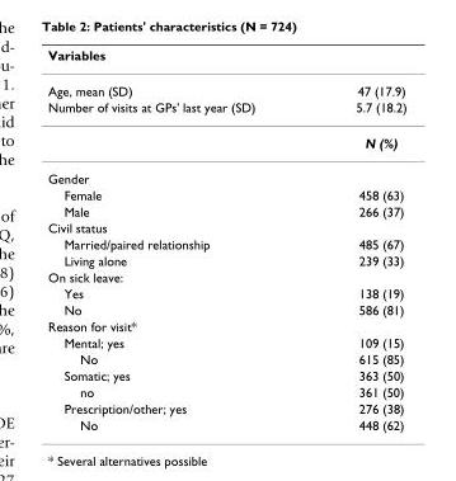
<table><thead><tr><td>Variables</td><td></td></tr></thead><tbody><tr><td>Age, mean (SD)</td><td>47 (17.9)</td></tr><tr><td rowspan="2">Number of visits at GPs&#x27; last year (SD)</td><td>5.7 (18.2)</td></tr><tr><td>N (%)</td></tr><tr><td colspan="2">Gender</td></tr><tr><td>Female</td><td>458 (63)</td></tr><tr><td>Male</td><td>266 (37)</td></tr><tr><td colspan="2">Civil status</td></tr><tr><td>Married/paired relationship</td><td>485 (67)</td></tr><tr><td>Living alone</td><td>239 (33)</td></tr><tr><td colspan="2">On sick leave:</td></tr><tr><td>Yes</td><td>138 (19)</td></tr><tr><td>No</td><td>586 (81)</td></tr><tr><td colspan="2">Reason for visit*</td></tr><tr><td>Mental; yes</td><td>109 (15)</td></tr><tr><td>No</td><td>615 (85)</td></tr><tr><td>Somatic; yes</td><td>363 (50)</td></tr><tr><td>no</td><td>361 (50)</td></tr><tr><td>Prescription/other; yes</td><td>276 (38)</td></tr><tr><td>No</td><td>448 (62)</td></tr></tbody></table>